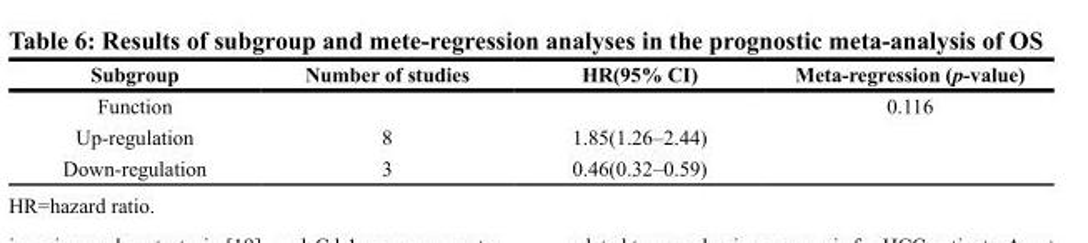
<table><thead><tr><td>Subgroup</td><td>Number of studies</td><td>HR(95% CI)</td><td>Meta-regression (p-value)</td></tr></thead><tbody><tr><td>Function</td><td></td><td></td><td>0.116</td></tr><tr><td>Up-regulation</td><td>8</td><td>1.85(1.26–2.44)</td><td></td></tr><tr><td>Down-regulation</td><td>3</td><td>0.46(0.32–0.59)</td><td></td></tr></tbody></table>